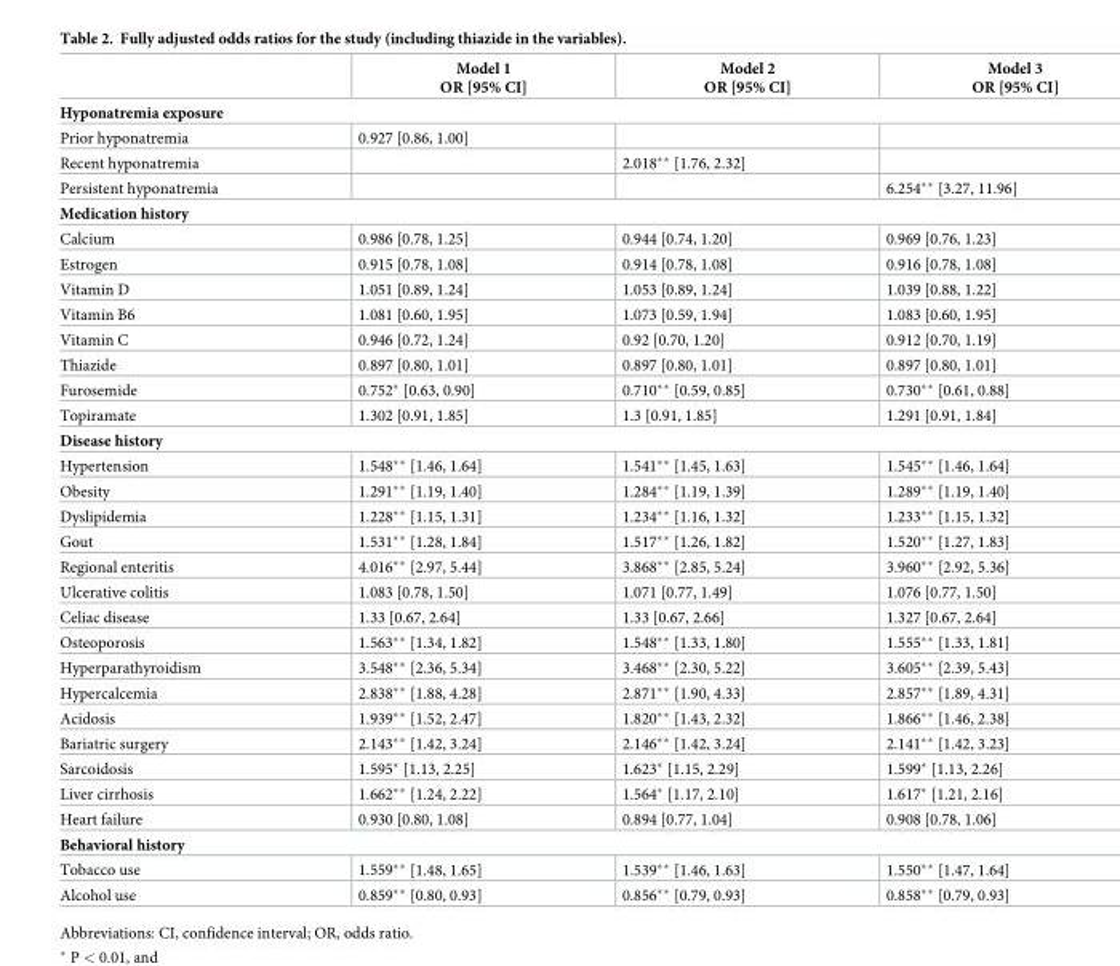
<table><thead><tr><td></td><td>Model 1 OR [95% CI]</td><td>Model 2 OR [95% CI]</td><td>Model 3 OR [95% CI]</td></tr></thead><tbody><tr><td colspan="4">Hyponatremia exposure</td></tr><tr><td>Prior hyponatremia</td><td>0.927 [0.86, 1.00]</td><td></td><td></td></tr><tr><td>Recent hyponatremia</td><td></td><td>2.018** [1.76, 2.32]</td><td></td></tr><tr><td>Persistent hyponatremia</td><td></td><td></td><td>6.254** [3.27, 11.96]</td></tr><tr><td colspan="4">Medication history</td></tr><tr><td>Calcium</td><td>0.986 [0.78, 1.25]</td><td>0.944 [0.74, 1.20]</td><td>0.969 [0.76, 1.23]</td></tr><tr><td>Estrogen</td><td>0.915 [0.78, 1.08]</td><td>0.914 [0.78, 1.08]</td><td>0.916 [0.78, 1.08]</td></tr><tr><td>Vitamin D</td><td>1.051 [0.89, 1.24]</td><td>1.053 [0.89, 1.24]</td><td>1.039 [0.88, 1.22]</td></tr><tr><td>Vitamin B6</td><td>1.081 [0.60, 1.95]</td><td>1.073 [0.59, 1.94]</td><td>1.083 [0.60, 1.95]</td></tr><tr><td>Vitamin C</td><td>0.946 [0.72, 1.24]</td><td>0.92 [0.70, 1.20]</td><td>0.912 [0.70, 1.19]</td></tr><tr><td>Thiazide</td><td>0.897 [0.80, 1.01]</td><td>0.897 [0.80, 1.01]</td><td>0.897 [0.80, 1.01]</td></tr><tr><td>Furosemide</td><td>0.752* [0.63, 0.90]</td><td>0.710** [0.59, 0.85]</td><td>0.730** [0.61, 0.88]</td></tr><tr><td>Topiramate</td><td>1.302 [0.91, 1.85]</td><td>1.3 [0.91, 1.85]</td><td>1.291 [0.91, 1.84]</td></tr><tr><td colspan="4">Disease history</td></tr><tr><td>Hypertension</td><td>1.548** [1.46, 1.64]</td><td>1.541** [1.45, 1.63]</td><td>1.545** [1.46, 1.64]</td></tr><tr><td>Obesity</td><td>1.291** [1.19, 1.40]</td><td>1.284** [1.19, 1.39]</td><td>1.289** [1.19, 1.40]</td></tr><tr><td>Dyslipidemia</td><td>1.228** [1.15, 1.31]</td><td>1.234** [1.16, 1.32]</td><td>1.233** [1.15, 1.32]</td></tr><tr><td>Gout</td><td>1.531** [1.28, 1.84]</td><td>1.517** [1.26, 1.82]</td><td>1.520** [1.27, 1.83]</td></tr><tr><td>Regional enteritis</td><td>4.016** [2.97, 5.44]</td><td>3.868** [2.85, 5.24]</td><td>3.960** [2.92, 5.36]</td></tr><tr><td>Ulcerative colitis</td><td>1.083 [0.78, 1.50]</td><td>1.071 [0.77, 1.49]</td><td>1.076 [0.77, 1.50]</td></tr><tr><td>Celiac disease</td><td>1.33 [0.67, 2.64]</td><td>1.33 [0.67, 2.66]</td><td>1.327 [0.67, 2.64]</td></tr><tr><td>Osteoporosis</td><td>1.563** [1.34, 1.82]</td><td>1.548** [1.33, 1.80]</td><td>1.555** [1.33, 1.81]</td></tr><tr><td>Hyperparathyroidism</td><td>3.548** [2.36, 5.34]</td><td>3.468** [2.30, 5.22]</td><td>3.605** [2.39, 5.43]</td></tr><tr><td>Hypercalcemia</td><td>2.838** [1.88, 4.28]</td><td>2.871** [1.90, 4.33]</td><td>2.857** [1.89, 4.31]</td></tr><tr><td>Acidosis</td><td>1.939** [1.52, 2.47]</td><td>1.820** [1.43, 2.32]</td><td>1.866** [1.46, 2.38]</td></tr><tr><td>Bariatric surgery</td><td>2.143** [1.42, 3.24]</td><td>2.146** [1.42, 3.24]</td><td>2.141** [1.42, 3.23]</td></tr><tr><td>Sarcoidosis</td><td>1.595* [1.13, 2.25]</td><td>1.623* [1.15, 2.29]</td><td>1.599* [1.13, 2.26]</td></tr><tr><td>Liver cirrhosis</td><td>1.662** [1.24, 2.22]</td><td>1.564* [1.17, 2.10]</td><td>1.617* [1.21, 2.16]</td></tr><tr><td>Heart failure</td><td>0.930 [0.80, 1.08]</td><td>0.894 [0.77, 1.04]</td><td>0.908 [0.78, 1.06]</td></tr><tr><td colspan="4">Behavioral history</td></tr><tr><td>Tobacco use</td><td>1.559** [1.48, 1.65]</td><td>1.539** [1.46, 1.63]</td><td>1.550** [1.47, 1.64]</td></tr><tr><td>Alcohol use</td><td>0.859** [0.80, 0.93]</td><td>0.856** [0.79, 0.93]</td><td>0.858** [0.79, 0.93]</td></tr></tbody></table>